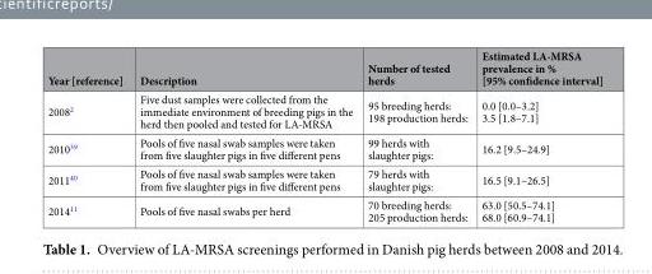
<table><thead><tr><td>Year [reference]</td><td>Description</td><td>Number of tested herds</td><td>Estimated LA-MRSA prevalence in % [95% confidence interval]</td></tr></thead><tbody><tr><td>2008<sup>2</sup></td><td>Five dust samples were collected from the immediate environment of breeding pigs in the herd then pooled and tested for LA-MRSA</td><td>95 breeding herds: 198 production herds:</td><td>0.0 [0.0–3.2] 3.5 [1.8–7.1]</td></tr><tr><td>2010<sup>39</sup></td><td>Pools of five nasal swab samples were taken from five slaughter pigs in five different pens</td><td>99 herds with slaughter pigs:</td><td>16.2 [9.5–24.9]</td></tr><tr><td>2011<sup>40</sup></td><td>Pools of five nasal swab samples were taken from five slaughter pigs in five different pens</td><td>79 herds with slaughter pigs:</td><td>16.5 [9.1–26.5]</td></tr><tr><td>2014<sup>11</sup></td><td>Pools of five nasal swabs per herd</td><td>70 breeding herds: 205 production herds:</td><td>63.0 [50.5–74.1] 68.0 [60.9–74.1]</td></tr></tbody></table>